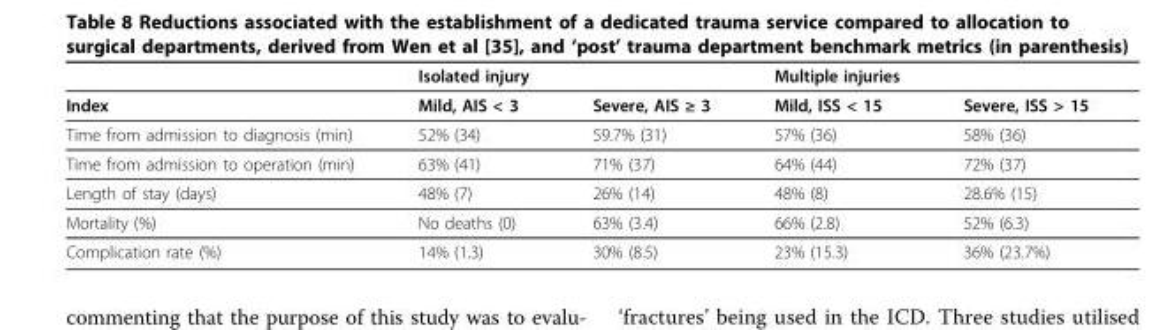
<table><thead><tr><td></td><td>Isolated injury</td><td></td><td>Multiple injuries</td><td></td></tr></thead><tbody><tr><td>Index</td><td>Mild, AIS &lt; 3</td><td>Severe, AIS ≥ 3</td><td>Mild, ISS &lt; 15</td><td>Severe, ISS &gt; 15</td></tr><tr><td>Time from admission to diagnosis (min)</td><td>52% (34)</td><td>59.7% (31)</td><td>57% (36)</td><td>58% (36)</td></tr><tr><td>Time from admission to operation (min)</td><td>63% (41)</td><td>71% (37)</td><td>64% (44)</td><td>72% (37)</td></tr><tr><td>Length of stay (days)</td><td>48% (7)</td><td>26% (14)</td><td>48% (8)</td><td>28.6% (15)</td></tr><tr><td>Mortality (%)</td><td>No deaths (0)</td><td>63% (3.4)</td><td>66% (2.8)</td><td>52% (6.3)</td></tr><tr><td>Complication rate (%)</td><td>14% (1.3)</td><td>30% (8.5)</td><td>23% (15.3)</td><td>36% (23.7%)</td></tr></tbody></table>